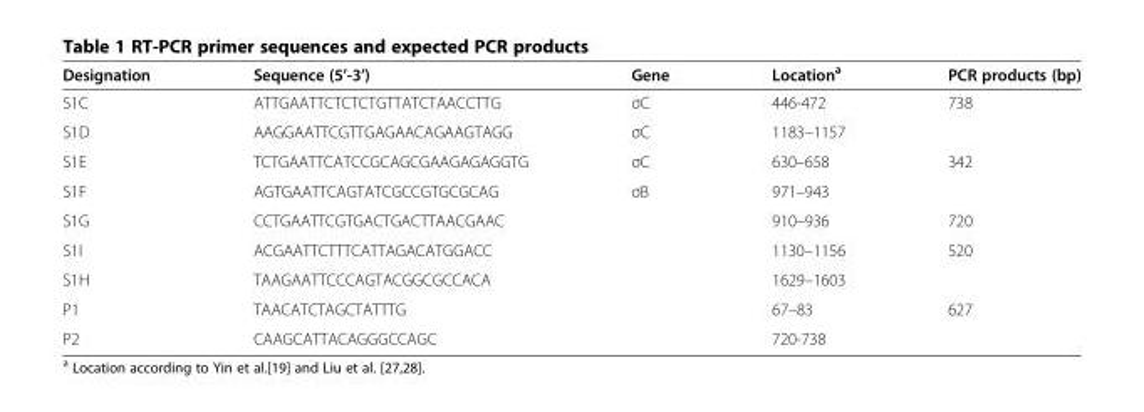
<table><thead><tr><td>Designation</td><td>Sequence (5’-3’)</td><td>Gene</td><td>Location<sup>a</sup></td><td>PCR products (bp)</td></tr></thead><tbody><tr><td>S1C</td><td>ATTGAATTCTCTCTGTTATCTAACCTTG</td><td>σC</td><td>446-472</td><td>738</td></tr><tr><td>S1D</td><td>AAGGAATTCGTTGAGAACAGAAGTAGG</td><td>σC</td><td>1183–1157</td><td></td></tr><tr><td>S1E</td><td>TCTGAATTCATCCGCAGCGAAGAGAGGTG</td><td>σC</td><td>630–658</td><td>342</td></tr><tr><td>S1F</td><td>AGTGAATTCAGTATCGCCGTGCGCAG</td><td>σB</td><td>971–943</td><td></td></tr><tr><td>S1G</td><td>CCTGAATTCGTGACTGACTTAACGAAC</td><td></td><td>910–936</td><td>720</td></tr><tr><td>S1I</td><td>ACGAATTCTTTCATTAGACATGGACC</td><td></td><td>1130–1156</td><td>520</td></tr><tr><td>S1H</td><td>TAAGAATTCCCAGTACGGCGCCACA</td><td></td><td>1629–1603</td><td></td></tr><tr><td>P1</td><td>TAACATCTAGCTATTTG</td><td></td><td>67–83</td><td>627</td></tr><tr><td>P2</td><td>CAAGCATTACAGGGCCAGC</td><td></td><td>720-738</td><td></td></tr></tbody></table>